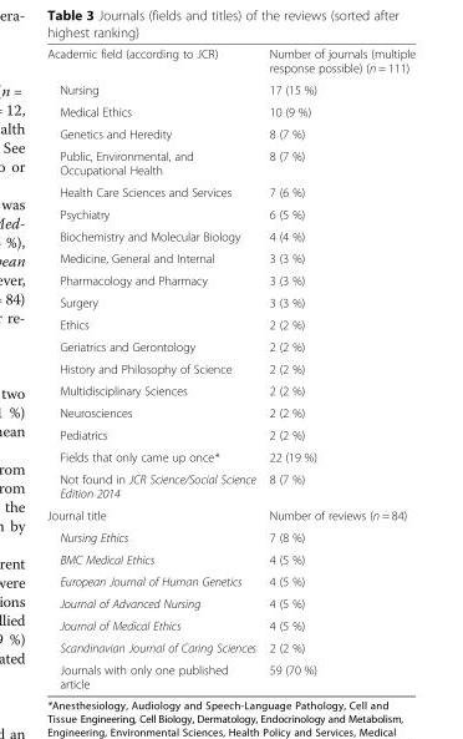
<table><tbody><tr><td>Academic field (according to JCR)</td><td>Number of journals (multiple response possible) (n = 111)</td></tr><tr><td>Nursing</td><td>17 (15 %)</td></tr><tr><td>Medical Ethics</td><td>10 (9 %)</td></tr><tr><td>Genetics and Heredity</td><td>8 (7 %)</td></tr><tr><td>Public, Environmental, and Occupational Health</td><td>8 (7 %)</td></tr><tr><td>Health Care Sciences and Services</td><td>7 (6 %)</td></tr><tr><td>Psychiatry</td><td>6 (5 %)</td></tr><tr><td>Biochemistry and Molecular Biology</td><td>4 (4 %)</td></tr><tr><td>Medicine, General and Internal</td><td>3 (3 %)</td></tr><tr><td>Pharmacology and Pharmacy</td><td>3 (3 %)</td></tr><tr><td>Surgery</td><td>3 (3 %)</td></tr><tr><td>Ethics</td><td>2 (2 %)</td></tr><tr><td>Geriatrics and Gerontology</td><td>2 (2 %)</td></tr><tr><td>History and Philosophy of Science</td><td>2 (2 %)</td></tr><tr><td>Multidisciplinary Sciences</td><td>2 (2 %)</td></tr><tr><td>Neurosciences</td><td>2 (2 %)</td></tr><tr><td>Pediatrics</td><td>2 (2 %)</td></tr><tr><td>Fields that only came up once*</td><td>22 (19 %)</td></tr><tr><td>Not found in JCR Science/Social Science Edition 2014</td><td>8 (7 %)</td></tr><tr><td>Journal title</td><td>Number of reviews (n = 84)</td></tr><tr><td>Nursing Ethics</td><td>7 (8 %)</td></tr><tr><td>BMC Medical Ethics</td><td>4 (5 %)</td></tr><tr><td>European Journal of Human Genetics</td><td>4 (5 %)</td></tr><tr><td>Journal of Advanced Nursing</td><td>4 (5 %)</td></tr><tr><td>Journal of Medical Ethics</td><td>4 (5 %)</td></tr><tr><td>Scandinavian Journal of Caring Sciences</td><td>2 (2 %)</td></tr><tr><td>Journals with only one published article</td><td>59 (70 %)</td></tr></tbody></table>